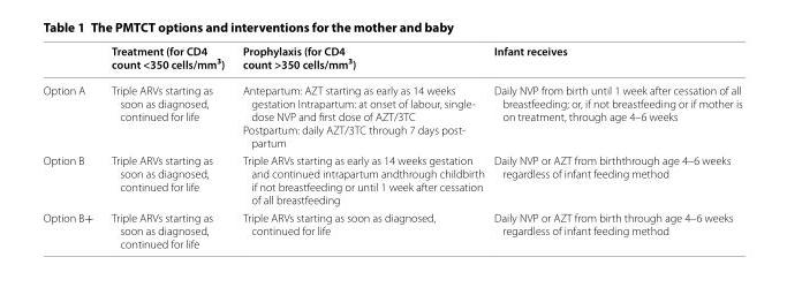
<table><thead><tr><td></td><td>Treatment (for CD4 count &lt;350 cells/mm<sup>3</sup>)</td><td>Prophylaxis (for CD4 count &gt;350 cells/mm<sup>3</sup>)</td><td>Infant receives</td></tr></thead><tbody><tr><td>Option A</td><td>Triple ARVs starting as soon as diagnosed, continued for life</td><td>Antepartum: AZT starting as early as 14 weeks gestation Intrapartum: at onset of labour, single- dose NVP and first dose of AZT/3TC Postpartum: daily AZT/3TC through 7 days post- partum</td><td>Daily NVP from birth until 1 week after cessation of all breastfeeding; or, if not breastfeeding or if mother is on treatment, through age 4–6 weeks</td></tr><tr><td>Option B</td><td>Triple ARVs starting as soon as diagnosed, continued for life</td><td>Triple ARVs starting as early as 14 weeks gestation and continued intrapartum andthrough childbirth if not breastfeeding or until 1 week after cessation of all breastfeeding</td><td>Daily NVP or AZT from birththrough age 4–6 weeks regardless of infant feeding method</td></tr><tr><td>Option B+</td><td>Triple ARVs starting as soon as diagnosed, continued for life</td><td>Triple ARVs starting as soon as diagnosed, continued for life</td><td>Daily NVP or AZT from birth through age 4–6 weeks regardless of infant feeding method</td></tr></tbody></table>